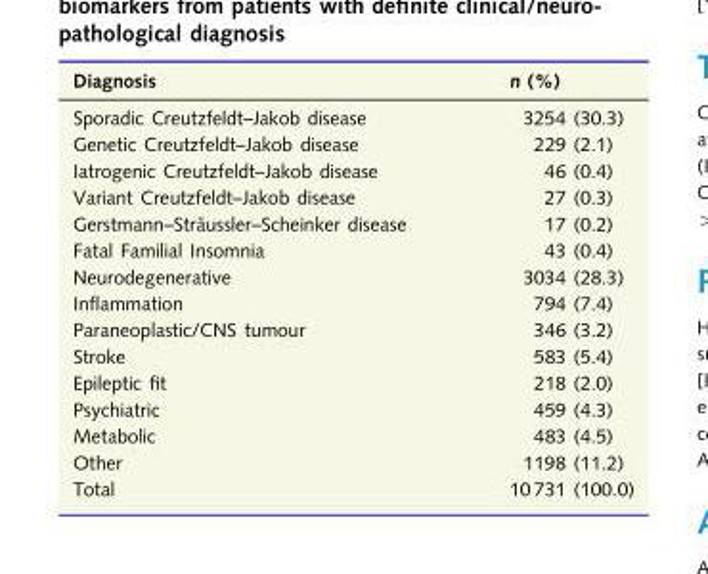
<table><thead><tr><td>Diagnosis</td><td>n (%)</td></tr></thead><tbody><tr><td>Sporadic Creutzfeldt–Jakob disease</td><td>3254 (30.3)</td></tr><tr><td>Genetic Creutzfeldt–Jakob disease</td><td>229 (2.1)</td></tr><tr><td>Iatrogenic Creutzfeldt–Jakob disease</td><td>46 (0.4)</td></tr><tr><td>Variant Creutzfeldt–Jakob disease</td><td>27 (0.3)</td></tr><tr><td>Gerstmann–Stra¨ussler–Scheinker disease</td><td>17 (0.2)</td></tr><tr><td>Fatal Familial Insomnia</td><td>43 (0.4)</td></tr><tr><td>Neurodegenerative</td><td>3034 (28.3)</td></tr><tr><td>Inflammation</td><td>794 (7.4)</td></tr><tr><td>Paraneoplastic/CNS tumour</td><td>346 (3.2)</td></tr><tr><td>Stroke</td><td>583 (5.4)</td></tr><tr><td>Epileptic fit</td><td>218 (2.0)</td></tr><tr><td>Psychiatric</td><td>459 (4.3)</td></tr><tr><td>Metabolic</td><td>483 (4.5)</td></tr><tr><td>Other</td><td>1198 (11.2)</td></tr><tr><td>Total</td><td>10 731 (100.0)</td></tr></tbody></table>